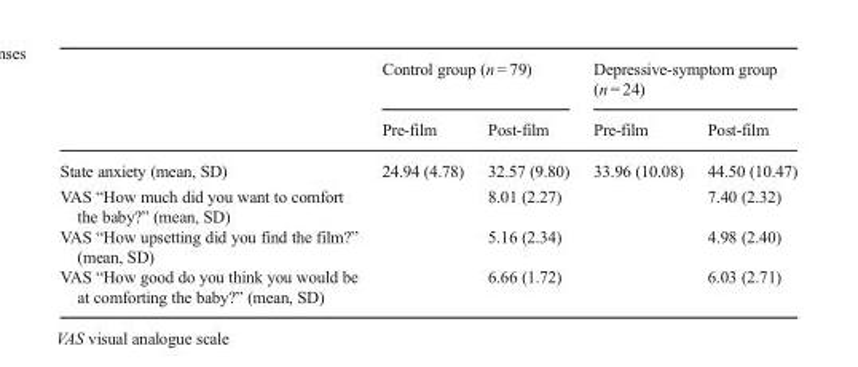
<table><thead><tr><td rowspan="2"></td><td colspan="2">Control group (n = 79)</td><td colspan="2">Depressive-symptom group (n = 24)</td></tr><tr><td>Pre-film</td><td>Post-film</td><td>Pre-film</td><td>Post-film</td></tr></thead><tbody><tr><td>State anxiety (mean, SD)</td><td>24.94 (4.78)</td><td>32.57 (9.80)</td><td>33.96 (10.08)</td><td>44.50 (10.47)</td></tr><tr><td>VAS “How much did you want to comfort the baby?” (mean, SD)</td><td></td><td>8.01 (2.27)</td><td></td><td>7.40 (2.32)</td></tr><tr><td>VAS “How upsetting did you find the film?” (mean, SD)</td><td></td><td>5.16 (2.34)</td><td></td><td>4.98 (2.40)</td></tr><tr><td>VAS “How good do you think you would be at comforting the baby?” (mean, SD)</td><td></td><td>6.66 (1.72)</td><td></td><td>6.03 (2.71)</td></tr></tbody></table>